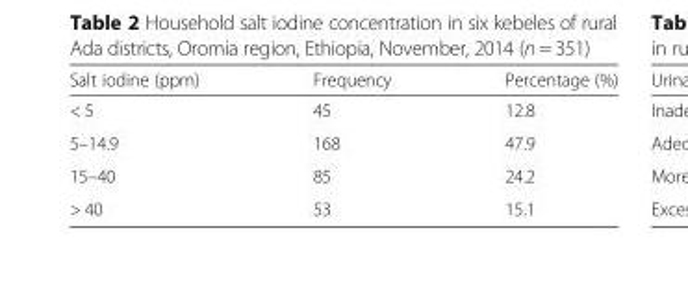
<table><thead><tr><td>Salt iodine (ppm)</td><td>Frequency</td><td>Percentage (%)</td></tr></thead><tbody><tr><td>&lt; 5</td><td>45</td><td>12.8</td></tr><tr><td>5–14.9</td><td>168</td><td>47.9</td></tr><tr><td>15–40</td><td>85</td><td>24.2</td></tr><tr><td>&gt; 40</td><td>53</td><td>15.1</td></tr></tbody></table>